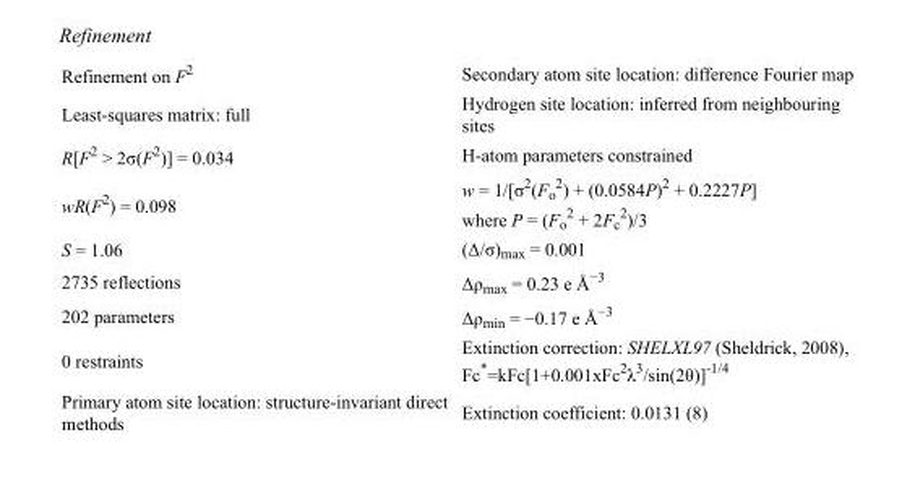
<table><tbody><tr><td>Refinement on F<sup>2</sup></td><td>Secondary atom site location: difference Fourier map</td></tr><tr><td>Least-squares matrix: full</td><td>Hydrogen site location: inferred from neighbouring sites</td></tr><tr><td>R[F<sup>2</sup> &gt; 2σ(F<sup>2</sup>)] = 0.034</td><td>H-atom parameters constrained</td></tr><tr><td>wR(F<sup>2</sup>) = 0.098</td><td>w = 1/[σ<sup>2</sup>(F<sub>o</sub> <sup>2</sup>) + (0.0584P)<sup>2</sup> + 0.2227P] where P = (F<sub>o</sub> <sup>2</sup> + 2F<sub>c</sub> <sup>2</sup>)/3</td></tr><tr><td>S = 1.06</td><td>(Δ/σ)<sub>max</sub> = 0.001</td></tr><tr><td>2735 reflections</td><td>Δρ<sub>max</sub> = 0.23 e Å<sup>−3</sup></td></tr><tr><td>202 parameters</td><td>Δρ<sub>min</sub> = −0.17 e Å<sup>−3</sup></td></tr><tr><td>0 restraints</td><td>Extinction correction: SHELXL97 (Sheldrick, 2008), Fc*=kFc[1+0.001xFc<sup>2</sup>λ<sup>3</sup>/sin(2θ)]<sup>-1/4</sup></td></tr><tr><td>Primary atom site location: structure-invariant direct methods</td><td>Extinction coefficient: 0.0131 (8)</td></tr></tbody></table>